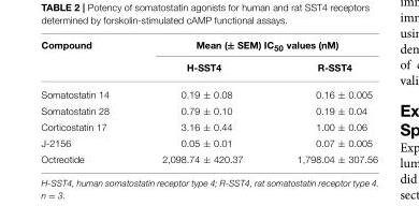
<table><thead><tr><td rowspan="2">Compound</td><td colspan="2">Mean (± SEM) IC<sub>50</sub> values (nM)</td></tr><tr><td>H-SST4</td><td>R-SST4</td></tr></thead><tbody><tr><td>Somatostatin 14</td><td>0.19 ± 0.08</td><td>0.16 ± 0.005</td></tr><tr><td>Somatostatin 28</td><td>0.79 ± 0.10</td><td>0.19 ± 0.04</td></tr><tr><td>Corticostatin 17</td><td>3.16 ± 0.44</td><td>1.00 ± 0.06</td></tr><tr><td>J-2156</td><td>0.05 ± 0.01</td><td>0.07 ± 0.005</td></tr><tr><td>Octreotide</td><td>2,098.74 ± 420.37</td><td>1,798.04 ± 307.56</td></tr></tbody></table>